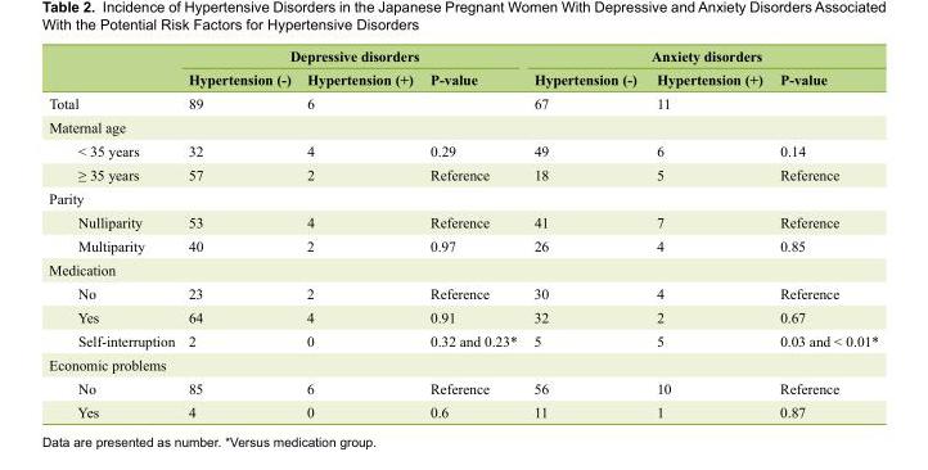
<table><thead><tr><td rowspan="2"></td><td colspan="3">Depressive disorders</td><td colspan="3">Anxiety disorders</td></tr><tr><td>Hypertension (-)</td><td>Hypertension (+)</td><td>P-value</td><td>Hypertension (-)</td><td>Hypertension (+)</td><td>P-value</td></tr></thead><tbody><tr><td>Total</td><td>89</td><td>6</td><td></td><td>67</td><td>11</td><td></td></tr><tr><td colspan="7">Maternal age</td></tr><tr><td>&lt; 35 years</td><td>32</td><td>4</td><td>0.29</td><td>49</td><td>6</td><td>0.14</td></tr><tr><td>≥ 35 years</td><td>57</td><td>2</td><td>Reference</td><td>18</td><td>5</td><td>Reference</td></tr><tr><td colspan="7">Parity</td></tr><tr><td>Nulliparity</td><td>53</td><td>4</td><td>Reference</td><td>41</td><td>7</td><td>Reference</td></tr><tr><td>Multiparity</td><td>40</td><td>2</td><td>0.97</td><td>26</td><td>4</td><td>0.85</td></tr><tr><td colspan="7">Medication</td></tr><tr><td>No</td><td>23</td><td>2</td><td>Reference</td><td>30</td><td>4</td><td>Reference</td></tr><tr><td>Yes</td><td>64</td><td>4</td><td>0.91</td><td>32</td><td>2</td><td>0.67</td></tr><tr><td>Self-interruption</td><td>2</td><td>0</td><td>0.32 and 0.23*</td><td>5</td><td>5</td><td>0.03 and &lt; 0.01*</td></tr><tr><td colspan="7">Economic problems</td></tr><tr><td>No</td><td>85</td><td>6</td><td>Reference</td><td>56</td><td>10</td><td>Reference</td></tr><tr><td>Yes</td><td>4</td><td>0</td><td>0.6</td><td>11</td><td>1</td><td>0.87</td></tr></tbody></table>